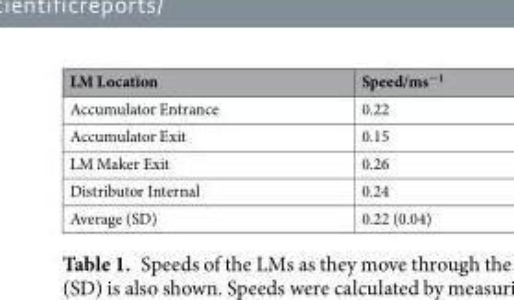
<table><thead><tr><td>LM Location</td><td>Speed/ms<sup>−1</sup></td></tr></thead><tbody><tr><td>Accumulator Entrance</td><td>0.22</td></tr><tr><td>Accumulator Exit</td><td>0.15</td></tr><tr><td>LM Maker Exit</td><td>0.26</td></tr><tr><td>Distributor Internal</td><td>0.24</td></tr><tr><td>Average (SD)</td><td>0.22 (0.04)</td></tr></tbody></table>